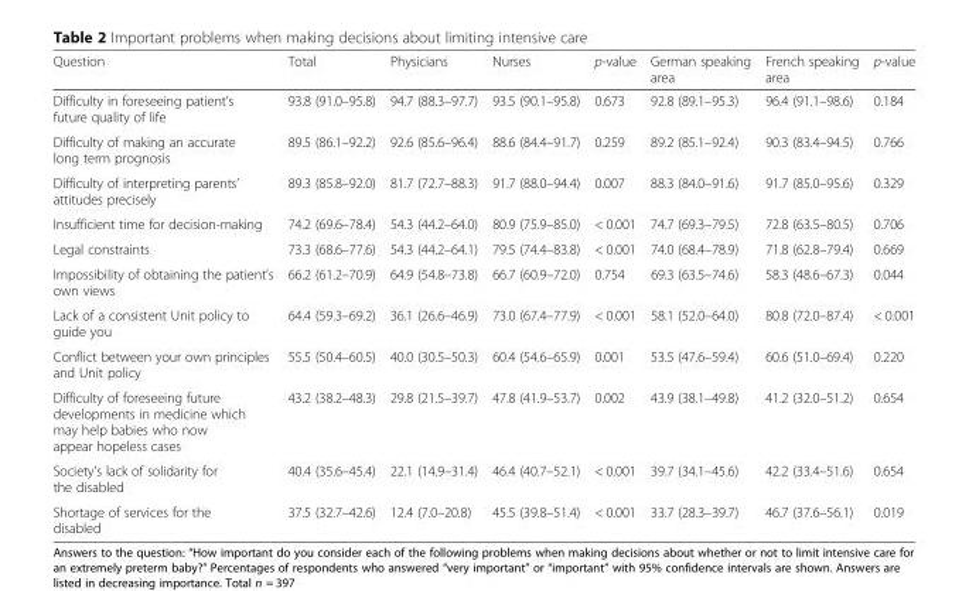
<table><thead><tr><td>Question</td><td>Total</td><td>Physicians</td><td>Nurses</td><td>p-value</td><td>German speaking area</td><td>French speaking area</td><td>p-value</td></tr></thead><tbody><tr><td>Difficulty in foreseeing patient’s future quality of life</td><td>93.8 (91.0–95.8)</td><td>94.7 (88.3–97.7)</td><td>93.5 (90.1–95.8)</td><td>0.673</td><td>92.8 (89.1–95.3)</td><td>96.4 (91.1–98.6)</td><td>0.184</td></tr><tr><td>Difficulty of making an accurate long term prognosis</td><td>89.5 (86.1–92.2)</td><td>92.6 (85.6–96.4)</td><td>88.6 (84.4–91.7)</td><td>0.259</td><td>89.2 (85.1–92.4)</td><td>90.3 (83.4–94.5)</td><td>0.766</td></tr><tr><td>Difficulty of interpreting parents’ attitudes precisely</td><td>89.3 (85.8–92.0)</td><td>81.7 (72.7–88.3)</td><td>91.7 (88.0–94.4)</td><td>0.007</td><td>88.3 (84.0–91.6)</td><td>91.7 (85.0–95.6)</td><td>0.329</td></tr><tr><td>Insufficient time for decision-making</td><td>74.2 (69.6–78.4)</td><td>54.3 (44.2–64.0)</td><td>80.9 (75.9–85.0)</td><td>&lt; 0.001</td><td>74.7 (69.3–79.5)</td><td>72.8 (63.5–80.5)</td><td>0.706</td></tr><tr><td>Legal constraints</td><td>73.3 (68.6–77.6)</td><td>54.3 (44.2–64.1)</td><td>79.5 (74.4–83.8)</td><td>&lt; 0.001</td><td>74.0 (68.4–78.9)</td><td>71.8 (62.8–79.4)</td><td>0.669</td></tr><tr><td>Impossibility of obtaining the patient’s own views</td><td>66.2 (61.2–70.9)</td><td>64.9 (54.8–73.8)</td><td>66.7 (60.9–72.0)</td><td>0.754</td><td>69.3 (63.5–74.6)</td><td>58.3 (48.6–67.3)</td><td>0.044</td></tr><tr><td>Lack of a consistent Unit policy to guide you</td><td>64.4 (59.3–69.2)</td><td>36.1 (26.6–46.9)</td><td>73.0 (67.4–77.9)</td><td>&lt; 0.001</td><td>58.1 (52.0–64.0)</td><td>80.8 (72.0–87.4)</td><td>&lt; 0.001</td></tr><tr><td>Conflict between your own principles and Unit policy</td><td>55.5 (50.4–60.5)</td><td>40.0 (30.5–50.3)</td><td>60.4 (54.6–65.9)</td><td>0.001</td><td>53.5 (47.6–59.4)</td><td>60.6 (51.0–69.4)</td><td>0.220</td></tr><tr><td>Difficulty of foreseeing future developments in medicine which may help babies who now appear hopeless cases</td><td>43.2 (38.2–48.3)</td><td>29.8 (21.5–39.7)</td><td>47.8 (41.9–53.7)</td><td>0.002</td><td>43.9 (38.1–49.8)</td><td>41.2 (32.0–51.2)</td><td>0.654</td></tr><tr><td>Society’s lack of solidarity for the disabled</td><td>40.4 (35.6–45.4)</td><td>22.1 (14.9–31.4)</td><td>46.4 (40.7–52.1)</td><td>&lt; 0.001</td><td>39.7 (34.1–45.6)</td><td>42.2 (33.4–51.6)</td><td>0.654</td></tr><tr><td>Shortage of services for the disabled</td><td>37.5 (32.7–42.6)</td><td>12.4 (7.0–20.8)</td><td>45.5 (39.8–51.4)</td><td>&lt; 0.001</td><td>33.7 (28.3–39.7)</td><td>46.7 (37.6–56.1)</td><td>0.019</td></tr></tbody></table>